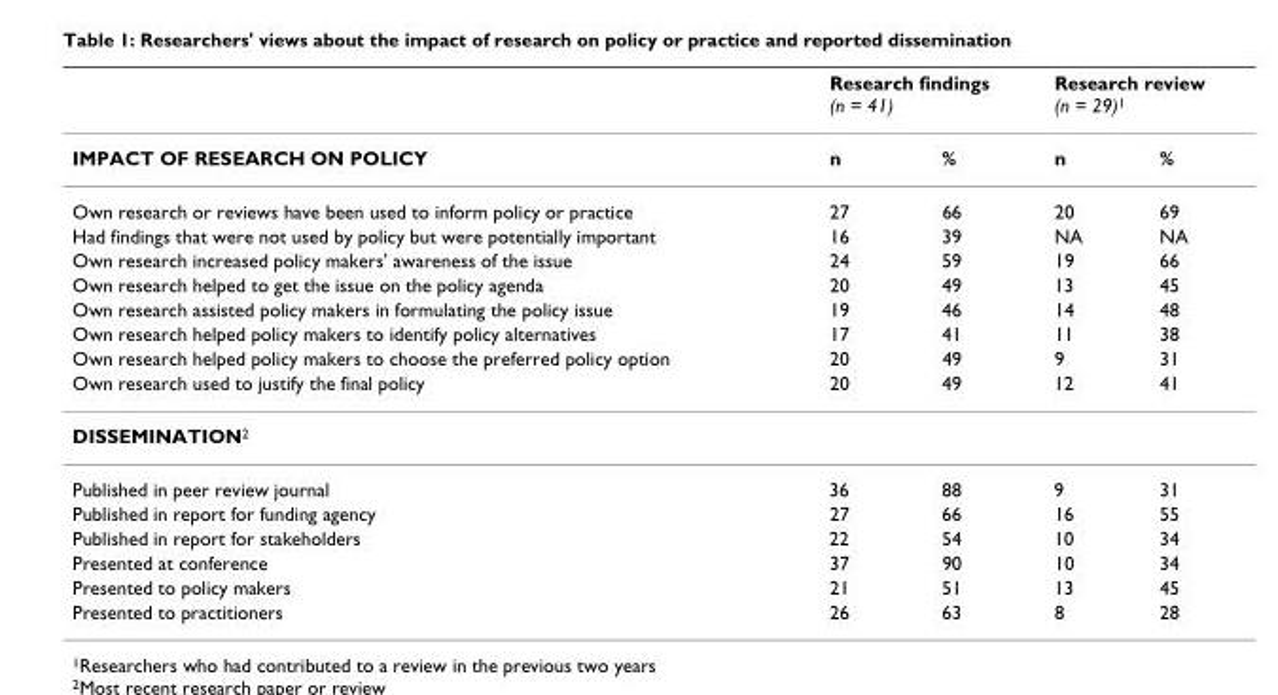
<table><thead><tr><td rowspan="2">IMPACT OF RESEARCH ON POLICY</td><td colspan="2">Research findings (n = 41)</td><td colspan="2">Research review (n = 29)<sup>1</sup></td></tr><tr><td>n</td><td>%</td><td>n</td><td>%</td></tr></thead><tbody><tr><td>Own research or reviews have been used to inform policy or practice</td><td>27</td><td>66</td><td>20</td><td>69</td></tr><tr><td>Had findings that were not used by policy but were potentially important</td><td>16</td><td>39</td><td>NA</td><td>NA</td></tr><tr><td>Own research increased policy makers&#x27; awareness of the issue</td><td>24</td><td>59</td><td>19</td><td>66</td></tr><tr><td>Own research helped to get the issue on the policy agenda</td><td>20</td><td>49</td><td>13</td><td>45</td></tr><tr><td>Own research assisted policy makers in formulating the policy issue</td><td>19</td><td>46</td><td>14</td><td>48</td></tr><tr><td>Own research helped policy makers to identify policy alternatives</td><td>17</td><td>41</td><td>11</td><td>38</td></tr><tr><td>Own research helped policy makers to choose the preferred policy option</td><td>20</td><td>49</td><td>9</td><td>31</td></tr><tr><td>Own research used to justify the final policy</td><td>20</td><td>49</td><td>12</td><td>41</td></tr><tr><td colspan="5">DISSEMINATION<sup>2</sup></td></tr><tr><td>Published in peer review journal</td><td>36</td><td>88</td><td>9</td><td>31</td></tr><tr><td>Published in report for funding agency</td><td>27</td><td>66</td><td>16</td><td>55</td></tr><tr><td>Published in report for stakeholders</td><td>22</td><td>54</td><td>10</td><td>34</td></tr><tr><td>Presented at conference</td><td>37</td><td>90</td><td>10</td><td>34</td></tr><tr><td>Presented to policy makers</td><td>21</td><td>51</td><td>13</td><td>45</td></tr><tr><td>Presented to practitioners</td><td>26</td><td>63</td><td>8</td><td>28</td></tr></tbody></table>